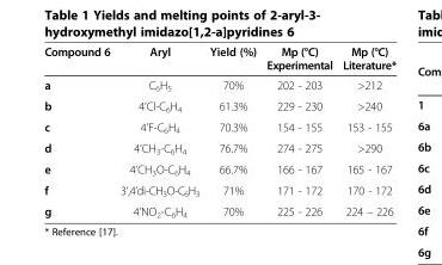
<table><thead><tr><td>Compound 6</td><td>Aryl</td><td>Yield (%)</td><td>Mp (°C) Experimental</td><td>Mp (°C) Literature*</td></tr></thead><tbody><tr><td>a</td><td>C<sub>6</sub>H<sub>5</sub></td><td>70%</td><td>202 - 203</td><td>&gt;212</td></tr><tr><td>b</td><td>4’Cl-C<sub>6</sub>H<sub>4</sub></td><td>61.3%</td><td>229 - 230</td><td>&gt;240</td></tr><tr><td>c</td><td>4’F-C<sub>6</sub>H<sub>4</sub></td><td>70.3%</td><td>154 - 155</td><td>153 - 155</td></tr><tr><td>d</td><td>4’CH<sub>3</sub>-C<sub>6</sub>H<sub>4</sub></td><td>76.7%</td><td>274 - 275</td><td>&gt;290</td></tr><tr><td>e</td><td>4’CH<sub>3</sub>O-C<sub>6</sub>H<sub>4</sub></td><td>66.7%</td><td>166 - 167</td><td>165 - 167</td></tr><tr><td>f</td><td>3’,4’di-CH<sub>3</sub>O-C<sub>6</sub>H<sub>3</sub></td><td>71%</td><td>171 - 172</td><td>170 - 172</td></tr><tr><td>g</td><td>4’NO<sub>2</sub>-C<sub>6</sub>H<sub>4</sub></td><td>70%</td><td>225 - 226</td><td>224 – 226</td></tr></tbody></table>